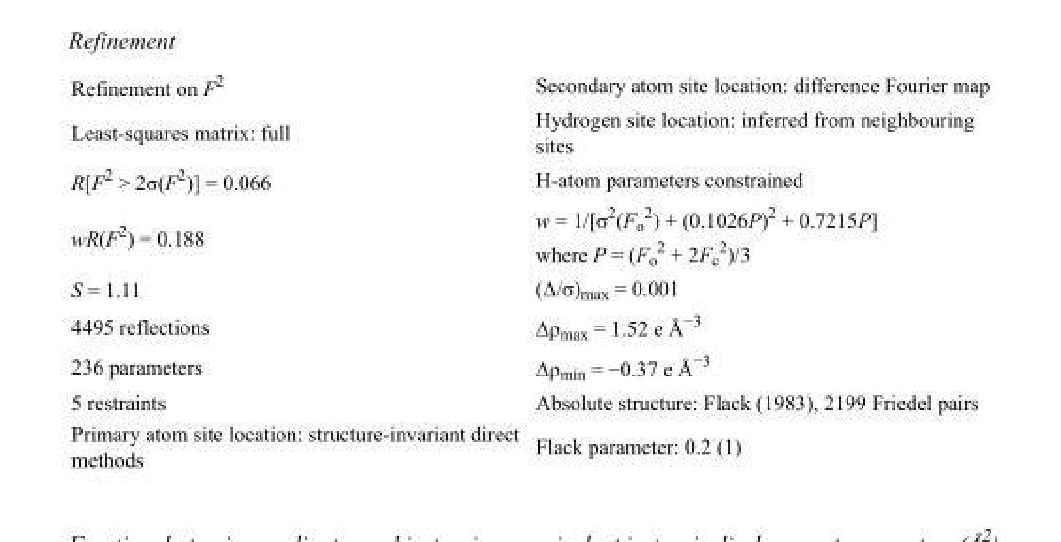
<table><tbody><tr><td>Refinement on F<sup>2</sup></td><td>Secondary atom site location: difference Fourier map</td></tr><tr><td>Least-squares matrix: full</td><td>Hydrogen site location: inferred from neighbouring sites</td></tr><tr><td>R[F<sup>2</sup> &gt; 2σ(F<sup>2</sup>)] = 0.066</td><td>H-atom parameters constrained</td></tr><tr><td>wR(F<sup>2</sup>) = 0.188</td><td>w = 1/[σ<sup>2</sup>(F<sub>o</sub> <sup>2</sup>) + (0.1026P)<sup>2</sup> + 0.7215P] where P = (F<sub>o</sub> <sup>2</sup> + 2F<sub>c</sub> <sup>2</sup>)/3</td></tr><tr><td>S = 1.11</td><td>(Δ/σ)<sub>max</sub> = 0.001</td></tr><tr><td>4495 reflections</td><td>Δρ<sub>max</sub> = 1.52 e Å<sup>−3</sup></td></tr><tr><td>236 parameters</td><td>Δρmin = −0.37 e Å−3</td></tr><tr><td>5 restraints</td><td>Absolute structure: Flack (1983), 2199 Friedel pairs</td></tr><tr><td>Primary atom site location: structure-invariant direct methods</td><td>Flack parameter: 0.2 (1)</td></tr></tbody></table>